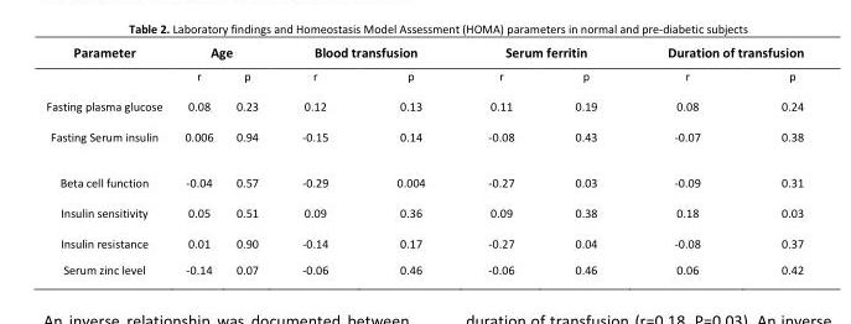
<table><thead><tr><td rowspan="2">Parameter</td><td colspan="2">Age</td><td colspan="2">Blood transfusion</td><td colspan="2">Serum ferritin</td><td colspan="2">Duration of transfusion</td></tr><tr><td>r</td><td>p</td><td>r</td><td>p</td><td>r</td><td>p</td><td>r</td><td>p</td></tr></thead><tbody><tr><td>Fasting plasma glucose</td><td>0.08</td><td>0.23</td><td>0.12</td><td>0.13</td><td>0.11</td><td>0.19</td><td>0.08</td><td>0.24</td></tr><tr><td>Fasting Serum insulin</td><td>0.006</td><td>0.94</td><td>-0.15</td><td>0.14</td><td>-0.08</td><td>0.43</td><td>-0.07</td><td>0.38</td></tr><tr><td>Beta cell function</td><td>-0.04</td><td>0.57</td><td>-0.29</td><td>0.004</td><td>-0.27</td><td>0.03</td><td>-0.09</td><td>0.31</td></tr><tr><td>Insulin sensitivity</td><td>0.05</td><td>0.51</td><td>0.09</td><td>0.36</td><td>0.09</td><td>0.38</td><td>0.18</td><td>0.03</td></tr><tr><td>Insulin resistance</td><td>0.01</td><td>0.90</td><td>-0.14</td><td>0.17</td><td>-0.27</td><td>0.04</td><td>-0.08</td><td>0.37</td></tr><tr><td>Serum zinc level</td><td>-0.14</td><td>0.07</td><td>-0.06</td><td>0.46</td><td>-0.06</td><td>0.46</td><td>0.06</td><td>0.42</td></tr></tbody></table>